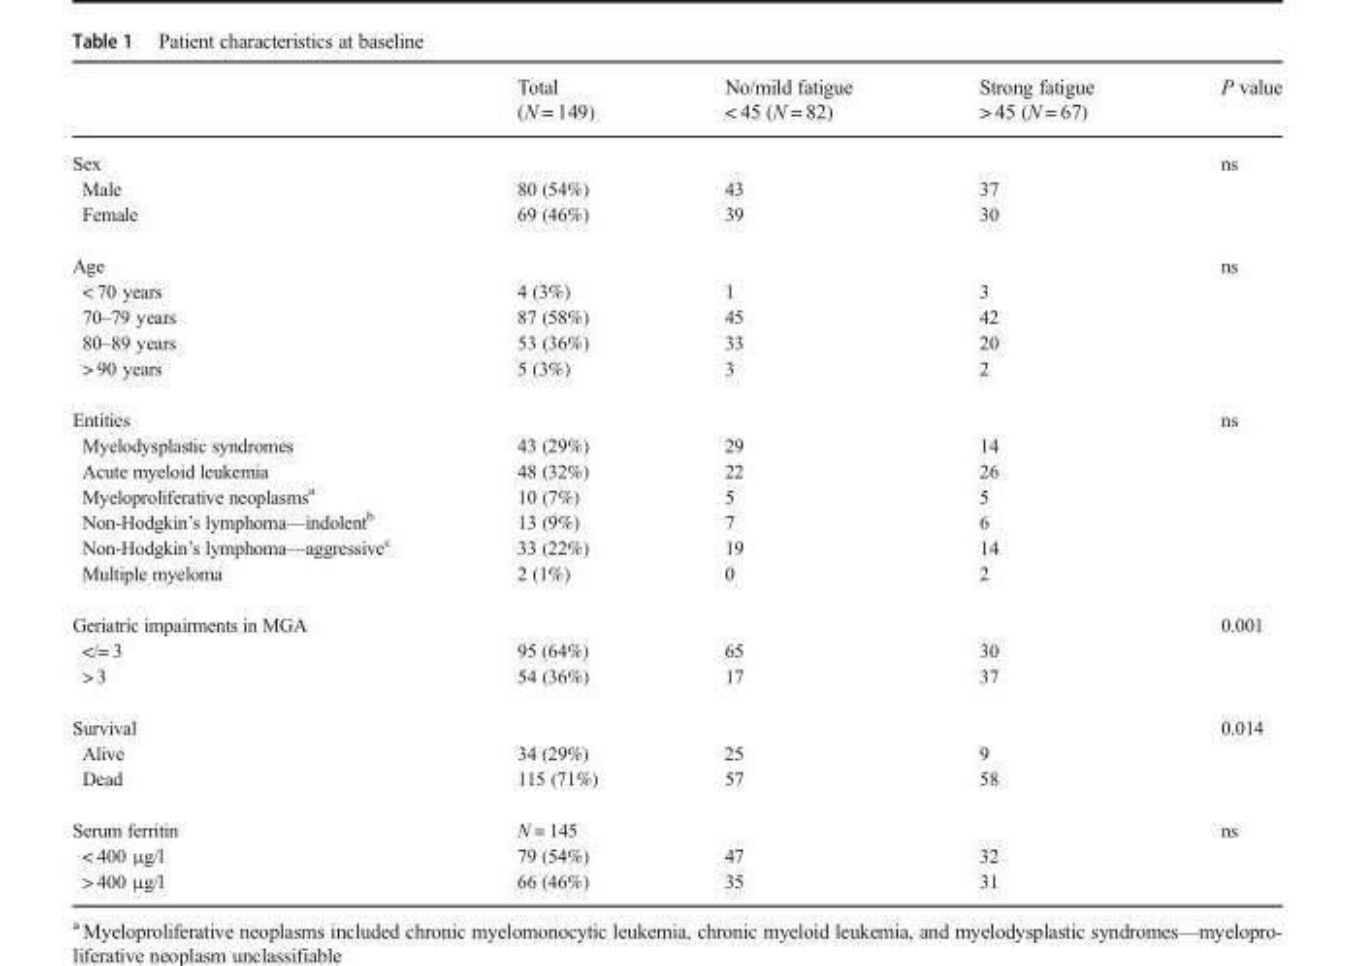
<table><thead><tr><td></td><td>Total (N = 149)</td><td>No/mild fatigue &lt; 45 (N = 82)</td><td>Strong fatigue &gt; 45 (N = 67)</td><td>P value</td></tr></thead><tbody><tr><td>Sex</td><td></td><td></td><td></td><td>ns</td></tr><tr><td>Male</td><td>80 (54%)</td><td>43</td><td>37</td><td></td></tr><tr><td>Female</td><td>69 (46%)</td><td>39</td><td>30</td><td></td></tr><tr><td>Age</td><td></td><td></td><td></td><td>ns</td></tr><tr><td>&lt; 70 years</td><td>4 (3%)</td><td>1</td><td>3</td><td></td></tr><tr><td>70–79 years</td><td>87 (58%)</td><td>45</td><td>42</td><td></td></tr><tr><td>80–89 years</td><td>53 (36%)</td><td>33</td><td>20</td><td></td></tr><tr><td>&gt; 90 years</td><td>5 (3%)</td><td>3</td><td>2</td><td></td></tr><tr><td>Entities</td><td></td><td></td><td></td><td>ns</td></tr><tr><td>Myelodysplastic syndromes</td><td>43 (29%)</td><td>29</td><td>14</td><td></td></tr><tr><td>Acute myeloid leukemia</td><td>48 (32%)</td><td>22</td><td>26</td><td></td></tr><tr><td>Myeloproliferative neoplasms<sup>a</sup></td><td>10 (7%)</td><td>5</td><td>5</td><td></td></tr><tr><td>Non-Hodgkin’s lymphoma—indolent<sup>b</sup></td><td>13 (9%)</td><td>7</td><td>6</td><td></td></tr><tr><td>Non-Hodgkin’s lymphoma—aggressive<sup>c</sup></td><td>33 (22%)</td><td>19</td><td>14</td><td></td></tr><tr><td>Multiple myeloma</td><td>2 (1%)</td><td>0</td><td>2</td><td></td></tr><tr><td>Geriatric impairments in MGA</td><td></td><td></td><td></td><td>0.001</td></tr><tr><td>&lt;/= 3</td><td>95 (64%)</td><td>65</td><td>30</td><td></td></tr><tr><td>&gt; 3</td><td>54 (36%)</td><td>17</td><td>37</td><td></td></tr><tr><td>Survival</td><td></td><td></td><td></td><td>0.014</td></tr><tr><td>Alive</td><td>34 (29%)</td><td>25</td><td>9</td><td></td></tr><tr><td>Dead</td><td>115 (71%)</td><td>57</td><td>58</td><td></td></tr><tr><td>Serum ferritin</td><td>N = 145</td><td></td><td></td><td>ns</td></tr><tr><td>&lt; 400 μg/l</td><td>79 (54%)</td><td>47</td><td>32</td><td></td></tr><tr><td>&gt; 400 μg/l</td><td>66 (46%)</td><td>35</td><td>31</td><td></td></tr></tbody></table>